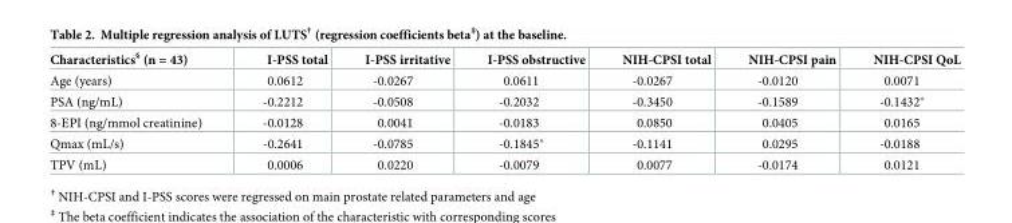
<table><thead><tr><td>Characteristics<sup>§</sup> (n = 43)</td><td>I-PSS total</td><td>I-PSS irritative</td><td>I-PSS obstructive</td><td>NIH-CPSI total</td><td>NIH-CPSI pain</td><td>NIH-CPSI QoL</td></tr></thead><tbody><tr><td>Age (years)</td><td>0.0612</td><td>-0.0267</td><td>0.0611</td><td>-0.0267</td><td>-0.0120</td><td>0.0071</td></tr><tr><td>PSA (ng/mL)</td><td>-0.2212</td><td>-0.0508</td><td>-0.2032</td><td>-0.3450</td><td>-0.1589</td><td>-0.1432*</td></tr><tr><td>8-EPI (ng/mmol creatinine)</td><td>-0.0128</td><td>0.0041</td><td>-0.0183</td><td>0.0850</td><td>0.0405</td><td>0.0165</td></tr><tr><td>Qmax (mL/s)</td><td>-0.2641</td><td>-0.0785</td><td>-0.1845*</td><td>-0.1141</td><td>0.0295</td><td>-0.0188</td></tr><tr><td>TPV (mL)</td><td>0.0006</td><td>0.0220</td><td>-0.0079</td><td>0.0077</td><td>-0.0174</td><td>0.0121</td></tr></tbody></table>